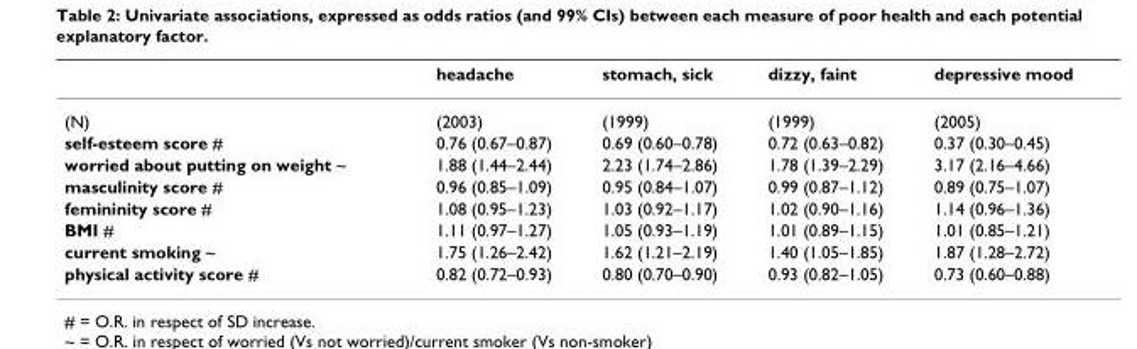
<table><thead><tr><td></td><td>headache</td><td>stomach, sick</td><td>dizzy, faint</td><td>depressive mood</td></tr></thead><tbody><tr><td>(N)</td><td>(2003)</td><td>(1999)</td><td>(1999)</td><td>(2005)</td></tr><tr><td>self-esteem score #</td><td>0.76 (0.67–0.87)</td><td>0.69 (0.60–0.78)</td><td>0.72 (0.63–0.82)</td><td>0.37 (0.30–0.45)</td></tr><tr><td>worried about putting on weight ~</td><td>1.88 (1.44–2.44)</td><td>2.23 (1.74–2.86)</td><td>1.78 (1.39–2.29)</td><td>3.17 (2.16–4.66)</td></tr><tr><td>masculinity score #</td><td>0.96 (0.85–1.09)</td><td>0.95 (0.84–1.07)</td><td>0.99 (0.87–1.12)</td><td>0.89 (0.75–1.07)</td></tr><tr><td>femininity score #</td><td>1.08 (0.95–1.23)</td><td>1.03 (0.92–1.17)</td><td>1.02 (0.90–1.16)</td><td>1.14 (0.96–1.36)</td></tr><tr><td>BMI #</td><td>1.11 (0.97–1.27)</td><td>1.05 (0.93–1.19)</td><td>1.01 (0.89–1.15)</td><td>1.01 (0.85–1.21)</td></tr><tr><td>current smoking ~</td><td>1.75 (1.26–2.42)</td><td>1.62 (1.21–2.19)</td><td>1.40 (1.05–1.85)</td><td>1.87 (1.28–2.72)</td></tr><tr><td>physical activity score #</td><td>0.82 (0.72–0.93)</td><td>0.80 (0.70–0.90)</td><td>0.93 (0.82–1.05)</td><td>0.73 (0.60–0.88)</td></tr></tbody></table>